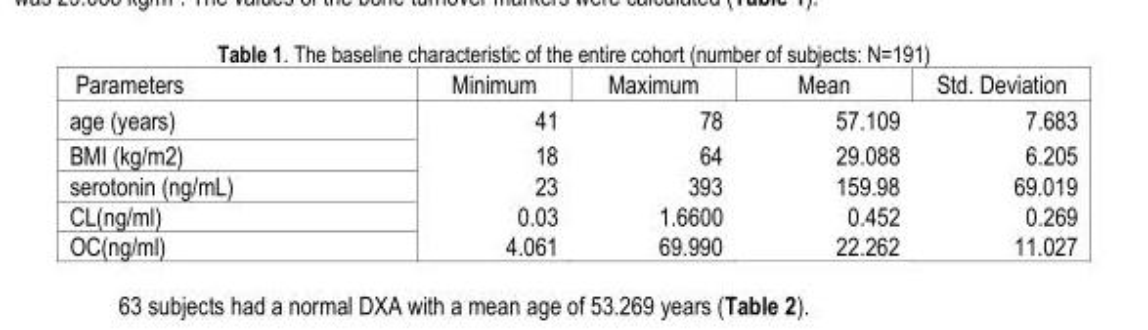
<table><tbody><tr><td>Parameters</td><td>Minimum</td><td>Maximum</td><td>Mean</td><td>Std. Deviation</td></tr><tr><td>age (years)</td><td>41</td><td>78</td><td>57.109</td><td>7.683</td></tr><tr><td>BMI (kg/m2)</td><td>18</td><td>64</td><td>29.088</td><td>6.205</td></tr><tr><td>serotonin (ng/mL)</td><td>23</td><td>393</td><td>159.98</td><td>69.019</td></tr><tr><td>CL(ng/ml)</td><td>0.03</td><td>1.6600</td><td>0.452</td><td>0.269</td></tr><tr><td>OC(ng/ml)</td><td>4.061</td><td>69.990</td><td>22.262</td><td>11.027</td></tr></tbody></table>